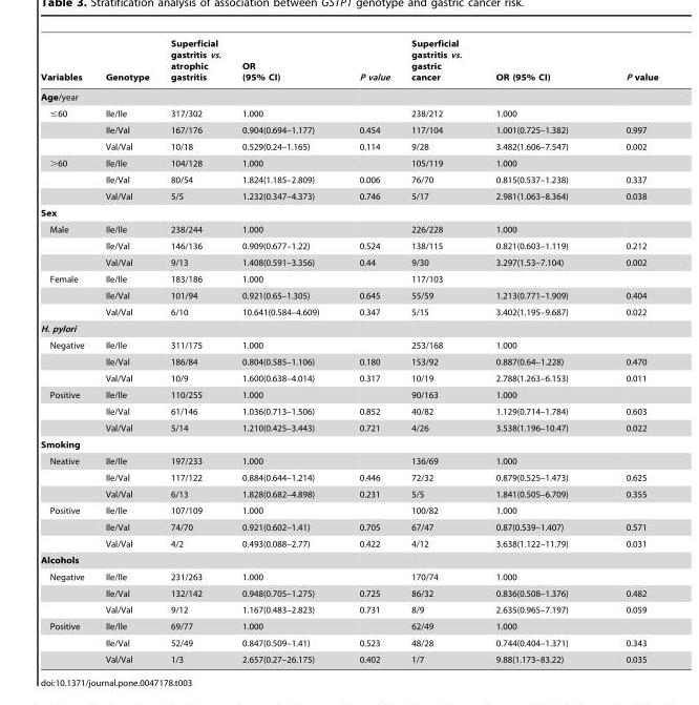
<table><thead><tr><td>Variables</td><td>Genotype</td><td>Superficial gastritis vs. atrophic gastritis</td><td>OR (95% CI)</td><td>P value</td><td>Superficial gastritis vs. gastric cancer</td><td>OR (95% CI)</td><td>P value</td></tr></thead><tbody><tr><td colspan="8">Age/year</td></tr><tr><td rowspan="3">≤60</td><td>Ile/Ile</td><td>317/302</td><td>1.000</td><td></td><td>238/212</td><td>1.000</td><td></td></tr><tr><td>Ile/Val</td><td>167/176</td><td>0.904(0.694–1.177)</td><td>0.454</td><td>117/104</td><td>1.001(0.725–1.382)</td><td>0.997</td></tr><tr><td>Val/Val</td><td>10/18</td><td>0.529(0.24–1.165)</td><td>0.114</td><td>9/28</td><td>3.482(1.606–7.547)</td><td>0.002</td></tr><tr><td rowspan="3">&gt;60</td><td>Ile/Ile</td><td>104/128</td><td>1.000</td><td></td><td>105/119</td><td>1.000</td><td></td></tr><tr><td>Ile/Val</td><td>80/54</td><td>1.824(1.185–2.809)</td><td>0.006</td><td>76/70</td><td>0.815(0.537–1.238)</td><td>0.337</td></tr><tr><td>Val/Val</td><td>5/5</td><td>1.232(0.347–4.373)</td><td>0.746</td><td>5/17</td><td>2.981(1.063–8.364)</td><td>0.038</td></tr><tr><td colspan="8">Sex</td></tr><tr><td rowspan="3">Male</td><td>Ile/Ile</td><td>238/244</td><td>1.000</td><td></td><td>226/228</td><td>1.000</td><td></td></tr><tr><td>Ile/Val</td><td>146/136</td><td>0.909(0.677–1.22)</td><td>0.524</td><td>138/115</td><td>0.821(0.603–1.119)</td><td>0.212</td></tr><tr><td>Val/Val</td><td>9/13</td><td>1.408(0.591–3.356)</td><td>0.44</td><td>9/30</td><td>3.297(1.53–7.104)</td><td>0.002</td></tr><tr><td rowspan="3">Female</td><td>Ile/Ile</td><td>183/186</td><td>1.000</td><td></td><td>117/103</td><td></td><td></td></tr><tr><td>Ile/Val</td><td>101/94</td><td>0.921(0.65–1.305)</td><td>0.645</td><td>55/59</td><td>1.213(0.771–1.909)</td><td>0.404</td></tr><tr><td>Val/Val</td><td>6/10</td><td>10.641(0.584–4.609)</td><td>0.347</td><td>5/15</td><td>3.402(1.195–9.687)</td><td>0.022</td></tr><tr><td colspan="8">H. pylori</td></tr><tr><td rowspan="3">Negative</td><td>Ile/Ile</td><td>311/175</td><td>1.000</td><td></td><td>253/168</td><td>1.000</td><td></td></tr><tr><td>Ile/Val</td><td>186/84</td><td>0.804(0.585–1.106)</td><td>0.180</td><td>153/92</td><td>0.887(0.64–1.228)</td><td>0.470</td></tr><tr><td>Val/Val</td><td>10/9</td><td>1.600(0.638–4.014)</td><td>0.317</td><td>10/19</td><td>2.788(1.263–6.153)</td><td>0.011</td></tr><tr><td rowspan="3">Positive</td><td>Ile/Ile</td><td>110/255</td><td>1.000</td><td></td><td>90/163</td><td>1.000</td><td></td></tr><tr><td>Ile/Val</td><td>61/146</td><td>1.036(0.713–1.506)</td><td>0.852</td><td>40/82</td><td>1.129(0.714–1.784)</td><td>0.603</td></tr><tr><td>Val/Val</td><td>5/14</td><td>1.210(0.425–3.443)</td><td>0.721</td><td>4/26</td><td>3.538(1.196–10.47)</td><td>0.022</td></tr><tr><td colspan="8">Smoking</td></tr><tr><td rowspan="3">Neative</td><td>Ile/Ile</td><td>197/233</td><td>1.000</td><td></td><td>136/69</td><td>1.000</td><td></td></tr><tr><td>Ile/Val</td><td>117/122</td><td>0.884(0.644–1.214)</td><td>0.446</td><td>72/32</td><td>0.879(0.525–1.473)</td><td>0.625</td></tr><tr><td>Val/Val</td><td>6/13</td><td>1.828(0.682–4.898)</td><td>0.231</td><td>5/5</td><td>1.841(0.505–6.709)</td><td>0.355</td></tr><tr><td rowspan="3">Positive</td><td>Ile/Ile</td><td>107/109</td><td>1.000</td><td></td><td>100/82</td><td>1.000</td><td></td></tr><tr><td>Ile/Val</td><td>74/70</td><td>0.921(0.602–1.41)</td><td>0.705</td><td>67/47</td><td>0.87(0.539–1.407)</td><td>0.571</td></tr><tr><td>Val/Val</td><td>4/2</td><td>0.493(0.088–2.77)</td><td>0.422</td><td>4/12</td><td>3.638(1.122–11.79)</td><td>0.031</td></tr><tr><td colspan="8">Alcohols</td></tr><tr><td rowspan="3">Negative</td><td>Ile/Ile</td><td>231/263</td><td>1.000</td><td></td><td>170/74</td><td>1.000</td><td></td></tr><tr><td>Ile/Val</td><td>132/142</td><td>0.948(0.705–1.275)</td><td>0.725</td><td>86/32</td><td>0.836(0.508–1.376)</td><td>0.482</td></tr><tr><td>Val/Val</td><td>9/12</td><td>1.167(0.483–2.823)</td><td>0.731</td><td>8/9</td><td>2.635(0.965–7.197)</td><td>0.059</td></tr><tr><td rowspan="3">Positive</td><td>Ile/Ile</td><td>69/77</td><td>1.000</td><td></td><td>62/49</td><td>1.000</td><td></td></tr><tr><td>Ile/Val</td><td>52/49</td><td>0.847(0.509–1.41)</td><td>0.523</td><td>48/28</td><td>0.744(0.404–1.371)</td><td>0.343</td></tr><tr><td>Val/Val</td><td>1/3</td><td>2.657(0.27–26.175)</td><td>0.402</td><td>1/7</td><td>9.88(1.173–83.22)</td><td>0.035</td></tr></tbody></table>